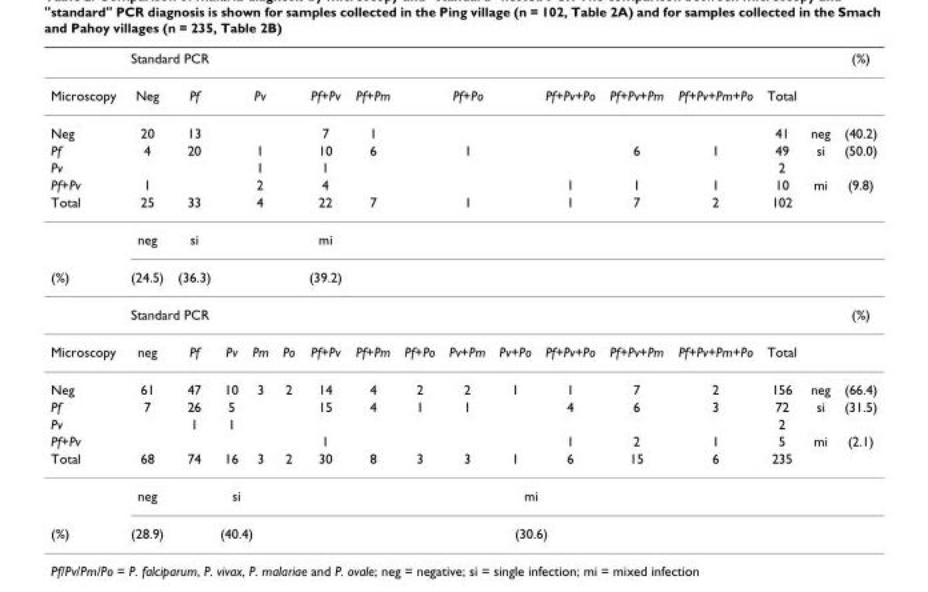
<table><thead><tr><td></td><td colspan="15">Standard PCR</td><td>(%)</td></tr></thead><tbody><tr><td>Microscopy</td><td>Neg</td><td>Pf</td><td colspan="3">Pv</td><td>Pf+Pv</td><td>Pf+Pm</td><td colspan="3">Pf+Po</td><td>Pf+Pv+Po</td><td>Pf+Pv+Pm</td><td>Pf+Pv+Pm+Po</td><td>Total</td><td></td><td></td></tr><tr><td>Neg</td><td>20</td><td>13</td><td colspan="3"></td><td>7</td><td>1</td><td colspan="3"></td><td></td><td></td><td></td><td>41</td><td>neg</td><td>(40.2)</td></tr><tr><td>Pf</td><td>4</td><td>20</td><td colspan="3">1</td><td>10</td><td>6</td><td colspan="3">1</td><td></td><td>6</td><td>1</td><td>49</td><td>si</td><td>(50.0)</td></tr><tr><td>Pv</td><td></td><td></td><td colspan="3">1</td><td>1</td><td></td><td colspan="3"></td><td></td><td></td><td></td><td>2</td><td></td><td></td></tr><tr><td>Pf+Pv</td><td>1</td><td></td><td colspan="3">2</td><td>4</td><td></td><td colspan="3"></td><td>1</td><td>1</td><td>1</td><td>10</td><td>mi</td><td>(9.8)</td></tr><tr><td rowspan="2">Total</td><td>25</td><td>33</td><td colspan="3">4</td><td>22</td><td>7</td><td colspan="3">1</td><td>1</td><td>7</td><td>2</td><td>102</td><td></td><td></td></tr><tr><td>neg</td><td>si</td><td></td><td></td><td></td><td>mi</td><td></td><td></td><td></td><td></td><td></td><td></td><td></td><td></td><td></td><td></td></tr><tr><td rowspan="2">(%)</td><td>(24.5)</td><td>(36.3)</td><td></td><td></td><td></td><td>(39.2)</td><td></td><td></td><td></td><td></td><td></td><td></td><td></td><td></td><td></td><td></td></tr><tr><td colspan="15">Standard PCR</td><td>(%)</td></tr><tr><td>Microscopy</td><td>neg</td><td>Pf</td><td>Pv</td><td>Pm</td><td>Po</td><td>Pf+Pv</td><td>Pf+Pm</td><td>Pf+Po</td><td>Pv+Pm</td><td>Pv+Po</td><td>Pf+Pv+Po</td><td>Pf+Pv+Pm</td><td>Pf+Pv+Pm+Po</td><td>Total</td><td></td><td></td></tr><tr><td>Neg</td><td>61</td><td>47</td><td>10</td><td>3</td><td>2</td><td>14</td><td>4</td><td>2</td><td>2</td><td>1</td><td>1</td><td>7</td><td>2</td><td>156</td><td>neg</td><td>(66.4)</td></tr><tr><td>Pf</td><td>7</td><td>26</td><td>5</td><td></td><td></td><td>15</td><td>4</td><td>1</td><td>1</td><td></td><td>4</td><td>6</td><td>3</td><td>72</td><td>si</td><td>(31.5)</td></tr><tr><td>Pv</td><td></td><td>1</td><td>1</td><td></td><td></td><td></td><td></td><td></td><td></td><td></td><td></td><td></td><td></td><td>2</td><td></td><td></td></tr><tr><td>Pf+Pv</td><td></td><td></td><td></td><td></td><td></td><td>1</td><td></td><td></td><td></td><td></td><td>1</td><td>2</td><td>1</td><td>5</td><td>mi</td><td>(2.1)</td></tr><tr><td rowspan="2">Total</td><td>68</td><td>74</td><td>16</td><td>3</td><td>2</td><td>30</td><td>8</td><td>3</td><td>3</td><td>1</td><td>6</td><td>15</td><td>6</td><td>235</td><td></td><td></td></tr><tr><td>neg</td><td colspan="4">si</td><td colspan="8">mi</td><td></td><td></td><td></td></tr><tr><td>(%)</td><td>(28.9)</td><td colspan="4">(40.4)</td><td colspan="8">(30.6)</td><td></td><td></td><td></td></tr></tbody></table>